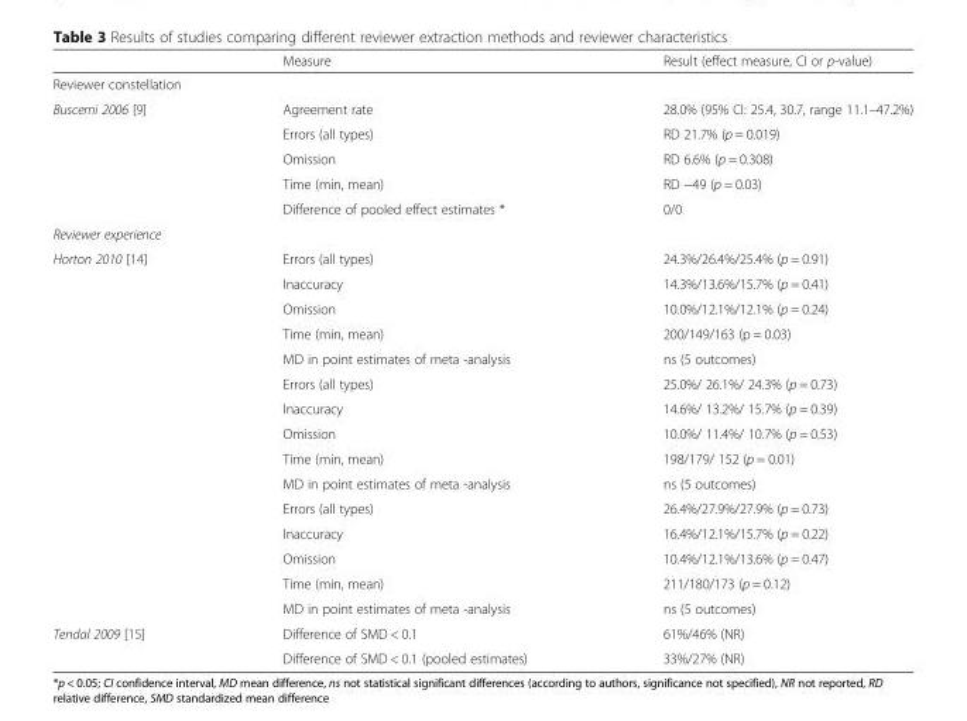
<table><thead><tr><td></td><td>Measure</td><td>Result (effect measure, CI or p-value)</td></tr></thead><tbody><tr><td colspan="3">Reviewer constellation</td></tr><tr><td rowspan="5">Buscemi 2006 [9]</td><td>Agreement rate</td><td>28.0% (95% CI: 25.4, 30.7, range 11.1–47.2%)</td></tr><tr><td>Errors (all types)</td><td>RD 21.7% (p = 0.019)</td></tr><tr><td>Omission</td><td>RD 6.6% (p = 0.308)</td></tr><tr><td>Time (min, mean)</td><td>RD −49 (p = 0.03)</td></tr><tr><td>Difference of pooled effect estimates *</td><td>0/0</td></tr><tr><td colspan="3">Reviewer experience</td></tr><tr><td rowspan="15">Horton 2010 [14]</td><td>Errors (all types)</td><td>24.3%/26.4%/25.4% (p = 0.91)</td></tr><tr><td>Inaccuracy</td><td>14.3%/13.6%/15.7% (p = 0.41)</td></tr><tr><td>Omission</td><td>10.0%/12.1%/12.1% (p = 0.24)</td></tr><tr><td>Time (min, mean)</td><td>200/149/163 (p = 0.03)</td></tr><tr><td>MD in point estimates of meta -analysis</td><td>ns (5 outcomes)</td></tr><tr><td>Errors (all types)</td><td>25.0%/ 26.1%/ 24.3% (p = 0.73)</td></tr><tr><td>Inaccuracy</td><td>14.6%/ 13.2%/ 15.7% (p = 0.39)</td></tr><tr><td>Omission</td><td>10.0%/ 11.4%/ 10.7% (p = 0.53)</td></tr><tr><td>Time (min, mean)</td><td>198/179/ 152 (p = 0.01)</td></tr><tr><td>MD in point estimates of meta -analysis</td><td>ns (5 outcomes)</td></tr><tr><td>Errors (all types)</td><td>26.4%/27.9%/27.9% (p = 0.73)</td></tr><tr><td>Inaccuracy</td><td>16.4%/12.1%/15.7% (p = 0.22)</td></tr><tr><td>Omission</td><td>10.4%/12.1%/13.6% (p = 0.47)</td></tr><tr><td>Time (min, mean)</td><td>211/180/173 (p = 0.12)</td></tr><tr><td>MD in point estimates of meta -analysis</td><td>ns (5 outcomes)</td></tr><tr><td rowspan="2">Tendal 2009 [15]</td><td>Difference of SMD &lt; 0.1</td><td>61%/46% (NR)</td></tr><tr><td>Difference of SMD &lt; 0.1 (pooled estimates)</td><td>33%/27% (NR)</td></tr></tbody></table>